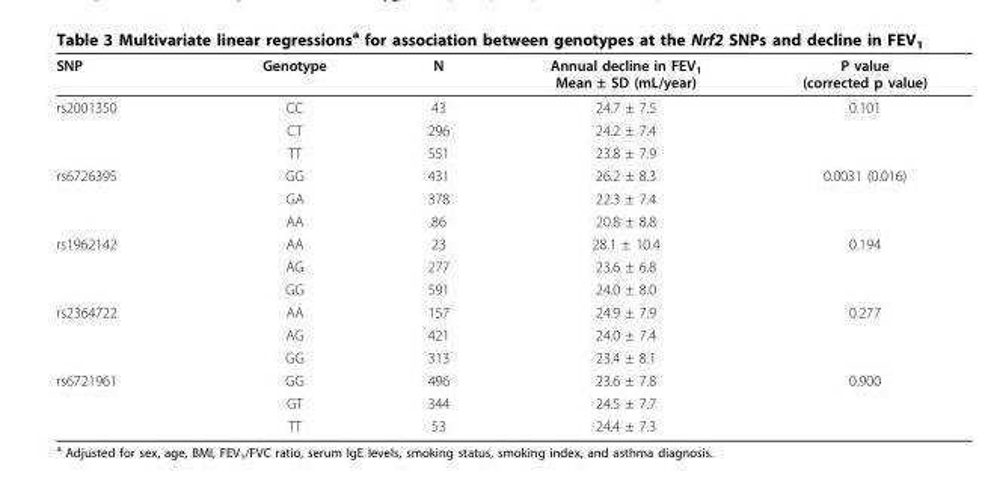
<table><thead><tr><td>SNP</td><td>Genotype</td><td>N</td><td>Annual decline in FEV<sub>1</sub> Mean ± SD (mL/year)</td><td>P value (corrected p value)</td></tr></thead><tbody><tr><td rowspan="3">rs2001350</td><td>CC</td><td>43</td><td>24.7 ± 7.5</td><td>0.101</td></tr><tr><td>CT</td><td>296</td><td>24.2 ± 7.4</td><td></td></tr><tr><td>TT</td><td>551</td><td>23.8 ± 7.9</td><td></td></tr><tr><td rowspan="3">rs6726395</td><td>GG</td><td>431</td><td>26.2 ± 8.3</td><td>0.0031 (0.016)</td></tr><tr><td>GA</td><td>378</td><td>22.3 ± 7.4</td><td></td></tr><tr><td>AA</td><td>86</td><td>20.8 ± 8.8</td><td></td></tr><tr><td rowspan="3">rs1962142</td><td>AA</td><td>23</td><td>28.1 ± 10.4</td><td>0.194</td></tr><tr><td>AG</td><td>277</td><td>23.6 ± 6.8</td><td></td></tr><tr><td>GG</td><td>591</td><td>24.0 ± 8.0</td><td></td></tr><tr><td rowspan="3">rs2364722</td><td>AA</td><td>157</td><td>24.9 ± 7.9</td><td>0.277</td></tr><tr><td>AG</td><td>421</td><td>24.0 ± 7.4</td><td></td></tr><tr><td>GG</td><td>313</td><td>23.4 ± 8.1</td><td></td></tr><tr><td rowspan="3">rs6721961</td><td>GG</td><td>496</td><td>23.6 ± 7.8</td><td>0.900</td></tr><tr><td>GT</td><td>344</td><td>24.5 ± 7.7</td><td></td></tr><tr><td>TT</td><td>53</td><td>24.4 ± 7.3</td><td></td></tr></tbody></table>